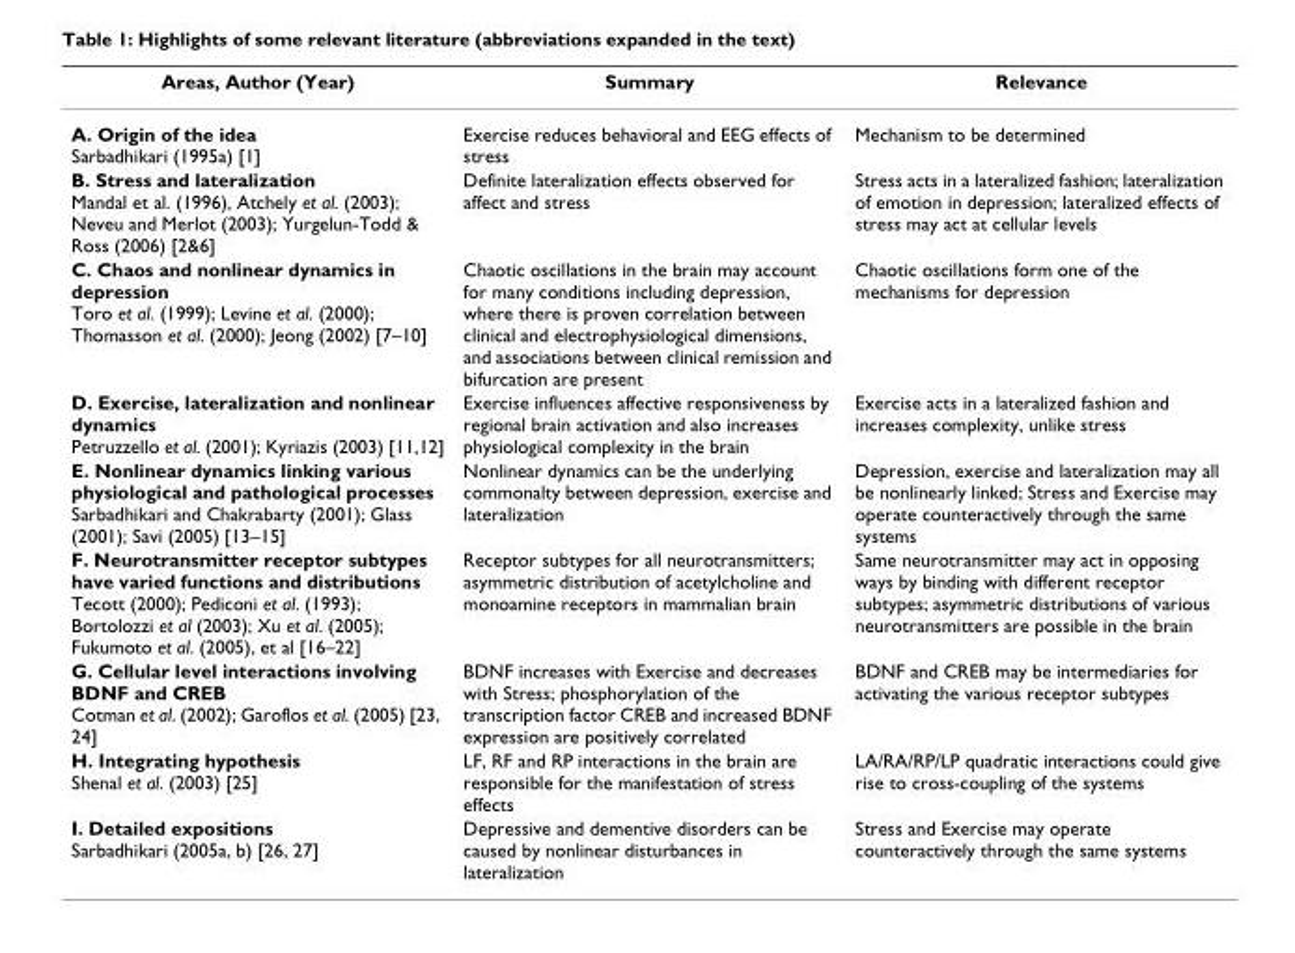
<table><thead><tr><td>Areas, Author (Year)</td><td>Summary</td><td>Relevance</td></tr></thead><tbody><tr><td>A. Origin of the idea Sarbadhikari (1995a) [1]</td><td>Exercise reduces behavioral and EEG effects of stress</td><td>Mechanism to be determined</td></tr><tr><td>B. Stress and lateralization Mandal et al. (1996), Atchely et al. (2003); Neveu and Merlot (2003); Yurgelun-Todd &amp; Ross (2006) [2&amp;6]</td><td>Definite lateralization effects observed for affect and stress</td><td>Stress acts in a lateralized fashion; lateralization of emotion in depression; lateralized effects of stress may act at cellular levels</td></tr><tr><td>C. Chaos and nonlinear dynamics in depression Toro et al. (1999); Levine et al. (2000); Thomasson et al. (2000); Jeong (2002) [7–10]</td><td>Chaotic oscillations in the brain may account for many conditions including depression, where there is proven correlation between clinical and electrophysiological dimensions, and associations between clinical remission and bifurcation are present</td><td>Chaotic oscillations form one of the mechanisms for depression</td></tr><tr><td>D. Exercise, lateralization and nonlinear dynamics Petruzzello et al. (2001); Kyriazis (2003) [11,12]</td><td>Exercise influences affective responsiveness by regional brain activation and also increases physiological complexity in the brain</td><td>Exercise acts in a lateralized fashion and increases complexity, unlike stress</td></tr><tr><td>E. Nonlinear dynamics linking various physiological and pathological processes Sarbadhikari and Chakrabarty (2001); Glass (2001); Savi (2005) [13–15]</td><td>Nonlinear dynamics can be the underlying commonalty between depression, exercise and lateralization</td><td>Depression, exercise and lateralization may all be nonlinearly linked; Stress and Exercise may operate counteractively through the same systems</td></tr><tr><td>F. Neurotransmitter receptor subtypes have varied functions and distributions Tecott (2000); Pediconi et al. (1993); Bortolozzi et al (2003); Xu et al. (2005); Fukumoto et al. (2005), et al [16–22]</td><td>Receptor subtypes for all neurotransmitters; asymmetric distribution of acetylcholine and monoamine receptors in mammalian brain</td><td>Same neurotransmitter may act in opposing ways by binding with different receptor subtypes; asymmetric distributions of various neurotransmitters are possible in the brain</td></tr><tr><td>G. Cellular level interactions involving BDNF and CREB Cotman et al. (2002); Garoflos et al. (2005) [23, 24]</td><td>BDNF increases with Exercise and decreases with Stress; phosphorylation of the transcription factor CREB and increased BDNF expression are positively correlated</td><td>BDNF and CREB may be intermediaries for activating the various receptor subtypes</td></tr><tr><td>H. Integrating hypothesis Shenal et al. (2003) [25]</td><td>LF, RF and RP interactions in the brain are responsible for the manifestation of stress effects</td><td>LA/RA/RP/LP quadratic interactions could give rise to cross-coupling of the systems</td></tr><tr><td>I. Detailed expositions Sarbadhikari (2005a, b) [26, 27]</td><td>Depressive and dementive disorders can be caused by nonlinear disturbances in lateralization</td><td>Stress and Exercise may operate counteractively through the same systems</td></tr></tbody></table>